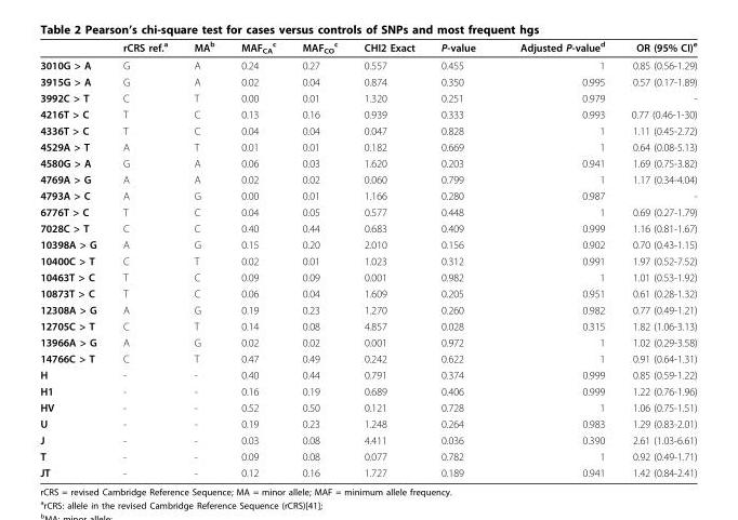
<table><thead><tr><td></td><td>rCRS ref.<sup>a</sup></td><td>MA<sup>b</sup></td><td>MAF<sub>CA</sub> <sup>c</sup></td><td>MAF<sub>CO</sub> <sup>c</sup></td><td>CHI2 Exact</td><td>P-value</td><td>Adjusted P-value<sup>d</sup></td><td>OR (95% CI)<sup>e</sup></td></tr></thead><tbody><tr><td>3010G &gt; A</td><td>G</td><td>A</td><td>0.24</td><td>0.27</td><td>0.557</td><td>0.455</td><td>1</td><td>0.85 (0.56-1.29)</td></tr><tr><td>3915G &gt; A</td><td>G</td><td>A</td><td>0.02</td><td>0.04</td><td>0.874</td><td>0.350</td><td>0.995</td><td>0.57 (0.17-1.89)</td></tr><tr><td>3992C &gt; T</td><td>C</td><td>T</td><td>0.00</td><td>0.01</td><td>1.320</td><td>0.251</td><td>0.979</td><td>-</td></tr><tr><td>4216T &gt; C</td><td>T</td><td>C</td><td>0.13</td><td>0.16</td><td>0.939</td><td>0.333</td><td>0.993</td><td>0.77 (0.46-1-30)</td></tr><tr><td>4336T &gt; C</td><td>T</td><td>C</td><td>0.04</td><td>0.04</td><td>0.047</td><td>0.828</td><td>1</td><td>1.11 (0.45-2.72)</td></tr><tr><td>4529A &gt; T</td><td>A</td><td>T</td><td>0.01</td><td>0.01</td><td>0.182</td><td>0.669</td><td>1</td><td>0.64 (0.08-5.13)</td></tr><tr><td>4580G &gt; A</td><td>G</td><td>A</td><td>0.06</td><td>0.03</td><td>1.620</td><td>0.203</td><td>0.941</td><td>1.69 (0.75-3.82)</td></tr><tr><td>4769A &gt; G</td><td>A</td><td>A</td><td>0.02</td><td>0.02</td><td>0.060</td><td>0.799</td><td>1</td><td>1.17 (0.34-4.04)</td></tr><tr><td>4793A &gt; C</td><td>A</td><td>G</td><td>0.00</td><td>0.01</td><td>1.166</td><td>0.280</td><td>0.987</td><td>-</td></tr><tr><td>6776T &gt; C</td><td>T</td><td>C</td><td>0.04</td><td>0.05</td><td>0.577</td><td>0.448</td><td>1</td><td>0.69 (0.27-1.79)</td></tr><tr><td>7028C &gt; T</td><td>C</td><td>C</td><td>0.40</td><td>0.44</td><td>0.683</td><td>0.409</td><td>0.999</td><td>1.16 (0.81-1.67)</td></tr><tr><td>10398A &gt; G</td><td>A</td><td>G</td><td>0.15</td><td>0.20</td><td>2.010</td><td>0.156</td><td>0.902</td><td>0.70 (0.43-1.15)</td></tr><tr><td>10400C &gt; T</td><td>C</td><td>T</td><td>0.02</td><td>0.01</td><td>1.023</td><td>0.312</td><td>0.991</td><td>1.97 (0.52-7.52)</td></tr><tr><td>10463T &gt; C</td><td>T</td><td>C</td><td>0.09</td><td>0.09</td><td>0.001</td><td>0.982</td><td>1</td><td>1.01 (0.53-1.92)</td></tr><tr><td>10873T &gt; C</td><td>T</td><td>C</td><td>0.06</td><td>0.04</td><td>1.609</td><td>0.205</td><td>0.951</td><td>0.61 (0.28-1.32)</td></tr><tr><td>12308A &gt; G</td><td>A</td><td>G</td><td>0.19</td><td>0.23</td><td>1.270</td><td>0.260</td><td>0.982</td><td>0.77 (0.49-1.21)</td></tr><tr><td>12705C &gt; T</td><td>C</td><td>T</td><td>0.14</td><td>0.08</td><td>4.857</td><td>0.028</td><td>0.315</td><td>1.82 (1.06-3.13)</td></tr><tr><td>13966A &gt; G</td><td>A</td><td>G</td><td>0.02</td><td>0.02</td><td>0.001</td><td>0.972</td><td>1</td><td>1.02 (0.29-3.58)</td></tr><tr><td>14766C &gt; T</td><td>C</td><td>T</td><td>0.47</td><td>0.49</td><td>0.242</td><td>0.622</td><td>1</td><td>0.91 (0.64-1.31)</td></tr><tr><td>H</td><td>-</td><td>-</td><td>0.40</td><td>0.44</td><td>0.791</td><td>0.374</td><td>0.999</td><td>0.85 (0.59-1.22)</td></tr><tr><td>H1</td><td>-</td><td>-</td><td>0.16</td><td>0.19</td><td>0.689</td><td>0.406</td><td>0.999</td><td>1.22 (0.76-1.96)</td></tr><tr><td>HV</td><td>-</td><td>-</td><td>0.52</td><td>0.50</td><td>0.121</td><td>0.728</td><td>1</td><td>1.06 (0.75-1.51)</td></tr><tr><td>U</td><td>-</td><td>-</td><td>0.19</td><td>0.23</td><td>1.248</td><td>0.264</td><td>0.983</td><td>1.29 (0.83-2.01)</td></tr><tr><td>J</td><td>-</td><td>-</td><td>0.03</td><td>0.08</td><td>4.411</td><td>0.036</td><td>0.390</td><td>2.61 (1.03-6.61)</td></tr><tr><td>T</td><td>-</td><td>-</td><td>0.09</td><td>0.08</td><td>0.077</td><td>0.782</td><td>1</td><td>0.92 (0.49-1.71)</td></tr><tr><td>JT</td><td>-</td><td>-</td><td>0.12</td><td>0.16</td><td>1.727</td><td>0.189</td><td>0.941</td><td>1.42 (0.84-2.41)</td></tr></tbody></table>